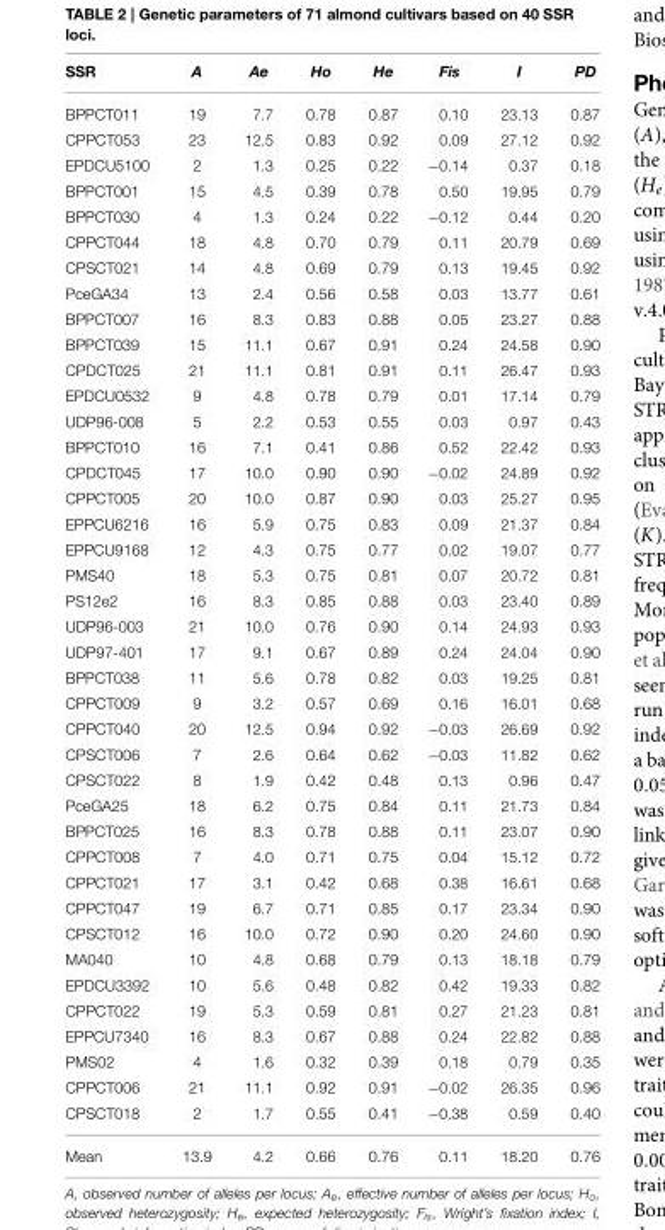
<table><thead><tr><td>SSR</td><td>A</td><td>Ae</td><td>Ho</td><td>He</td><td>Fis</td><td>I</td><td>PD</td></tr></thead><tbody><tr><td>BPPCT011</td><td>19</td><td>7.7</td><td>0.78</td><td>0.87</td><td>0.10</td><td>23.13</td><td>0.87</td></tr><tr><td>CPPCT053</td><td>23</td><td>12.5</td><td>0.83</td><td>0.92</td><td>0.09</td><td>27.12</td><td>0.92</td></tr><tr><td>EPDCU5100</td><td>2</td><td>1.3</td><td>0.25</td><td>0.22</td><td>−0.14</td><td>0.37</td><td>0.18</td></tr><tr><td>BPPCT001</td><td>15</td><td>4.5</td><td>0.39</td><td>0.78</td><td>0.50</td><td>19.95</td><td>0.79</td></tr><tr><td>BPPCT030</td><td>4</td><td>1.3</td><td>0.24</td><td>0.22</td><td>−0.12</td><td>0.44</td><td>0.20</td></tr><tr><td>CPPCT044</td><td>18</td><td>4.8</td><td>0.70</td><td>0.79</td><td>0.11</td><td>20.79</td><td>0.69</td></tr><tr><td>CPSCT021</td><td>14</td><td>4.8</td><td>0.69</td><td>0.79</td><td>0.13</td><td>19.45</td><td>0.92</td></tr><tr><td>PceGA34</td><td>13</td><td>2.4</td><td>0.56</td><td>0.58</td><td>0.03</td><td>13.77</td><td>0.61</td></tr><tr><td>BPPCT007</td><td>16</td><td>8.3</td><td>0.83</td><td>0.88</td><td>0.05</td><td>23.27</td><td>0.88</td></tr><tr><td>BPPCT039</td><td>15</td><td>11.1</td><td>0.67</td><td>0.91</td><td>0.24</td><td>24.58</td><td>0.90</td></tr><tr><td>CPDCT025</td><td>21</td><td>11.1</td><td>0.81</td><td>0.91</td><td>0.11</td><td>26.47</td><td>0.93</td></tr><tr><td>EPDCU0532</td><td>9</td><td>4.8</td><td>0.78</td><td>0.79</td><td>0.01</td><td>17.14</td><td>0.79</td></tr><tr><td>UDP96-008</td><td>5</td><td>2.2</td><td>0.53</td><td>0.55</td><td>0.03</td><td>0.97</td><td>0.43</td></tr><tr><td>BPPCT010</td><td>16</td><td>7.1</td><td>0.41</td><td>0.86</td><td>0.52</td><td>22.42</td><td>0.93</td></tr><tr><td>CPDCT045</td><td>17</td><td>10.0</td><td>0.90</td><td>0.90</td><td>−0.02</td><td>24.89</td><td>0.92</td></tr><tr><td>CPPCT005</td><td>20</td><td>10.0</td><td>0.87</td><td>0.90</td><td>0.03</td><td>25.27</td><td>0.95</td></tr><tr><td>EPPCU6216</td><td>16</td><td>5.9</td><td>0.75</td><td>0.83</td><td>0.09</td><td>21.37</td><td>0.84</td></tr><tr><td>EPPCU9168</td><td>12</td><td>4.3</td><td>0.75</td><td>0.77</td><td>0.02</td><td>19.07</td><td>0.77</td></tr><tr><td>PMS40</td><td>18</td><td>5.3</td><td>0.75</td><td>0.81</td><td>0.07</td><td>20.72</td><td>0.81</td></tr><tr><td>PS12e2</td><td>16</td><td>8.3</td><td>0.85</td><td>0.88</td><td>0.03</td><td>23.40</td><td>0.89</td></tr><tr><td>UDP96-003</td><td>21</td><td>10.0</td><td>0.76</td><td>0.90</td><td>0.14</td><td>24.93</td><td>0.93</td></tr><tr><td>UDP97-401</td><td>17</td><td>9.1</td><td>0.67</td><td>0.89</td><td>0.24</td><td>24.04</td><td>0.90</td></tr><tr><td>BPPCT038</td><td>11</td><td>5.6</td><td>0.78</td><td>0.82</td><td>0.03</td><td>19.25</td><td>0.81</td></tr><tr><td>CPPCT009</td><td>9</td><td>3.2</td><td>0.57</td><td>0.69</td><td>0.16</td><td>16.01</td><td>0.68</td></tr><tr><td>CPPCT040</td><td>20</td><td>12.5</td><td>0.94</td><td>0.92</td><td>−0.03</td><td>26.69</td><td>0.92</td></tr><tr><td>CPSCT006</td><td>7</td><td>2.6</td><td>0.64</td><td>0.62</td><td>−0.03</td><td>11.82</td><td>0.62</td></tr><tr><td>CPSCT022</td><td>8</td><td>1.9</td><td>0.42</td><td>0.48</td><td>0.13</td><td>0.96</td><td>0.47</td></tr><tr><td>PceGA25</td><td>18</td><td>6.2</td><td>0.75</td><td>0.84</td><td>0.11</td><td>21.73</td><td>0.84</td></tr><tr><td>BPPCT025</td><td>16</td><td>8.3</td><td>0.78</td><td>0.88</td><td>0.11</td><td>23.07</td><td>0.90</td></tr><tr><td>CPPCT008</td><td>7</td><td>4.0</td><td>0.71</td><td>0.75</td><td>0.04</td><td>15.12</td><td>0.72</td></tr><tr><td>CPPCT021</td><td>17</td><td>3.1</td><td>0.42</td><td>0.68</td><td>0.38</td><td>16.61</td><td>0.68</td></tr><tr><td>CPPCT047</td><td>19</td><td>6.7</td><td>0.71</td><td>0.85</td><td>0.17</td><td>23.34</td><td>0.90</td></tr><tr><td>CPSCT012</td><td>16</td><td>10.0</td><td>0.72</td><td>0.90</td><td>0.20</td><td>24.60</td><td>0.90</td></tr><tr><td>MA040</td><td>10</td><td>4.8</td><td>0.68</td><td>0.79</td><td>0.13</td><td>18.18</td><td>0.79</td></tr><tr><td>EPDCU3392</td><td>10</td><td>5.6</td><td>0.48</td><td>0.82</td><td>0.42</td><td>19.33</td><td>0.82</td></tr><tr><td>CPPCT022</td><td>19</td><td>5.3</td><td>0.59</td><td>0.81</td><td>0.27</td><td>21.23</td><td>0.81</td></tr><tr><td>EPPCU7340</td><td>16</td><td>8.3</td><td>0.67</td><td>0.88</td><td>0.24</td><td>22.82</td><td>0.88</td></tr><tr><td>PMS02</td><td>4</td><td>1.6</td><td>0.32</td><td>0.39</td><td>0.18</td><td>0.79</td><td>0.35</td></tr><tr><td>CPPCT006</td><td>21</td><td>11.1</td><td>0.92</td><td>0.91</td><td>−0.02</td><td>26.35</td><td>0.96</td></tr><tr><td>CPSCT018</td><td>2</td><td>1.7</td><td>0.55</td><td>0.41</td><td>−0.38</td><td>0.59</td><td>0.40</td></tr><tr><td>Mean</td><td>13.9</td><td>4.2</td><td>0.66</td><td>0.76</td><td>0.11</td><td>18.20</td><td>0.76</td></tr></tbody></table>